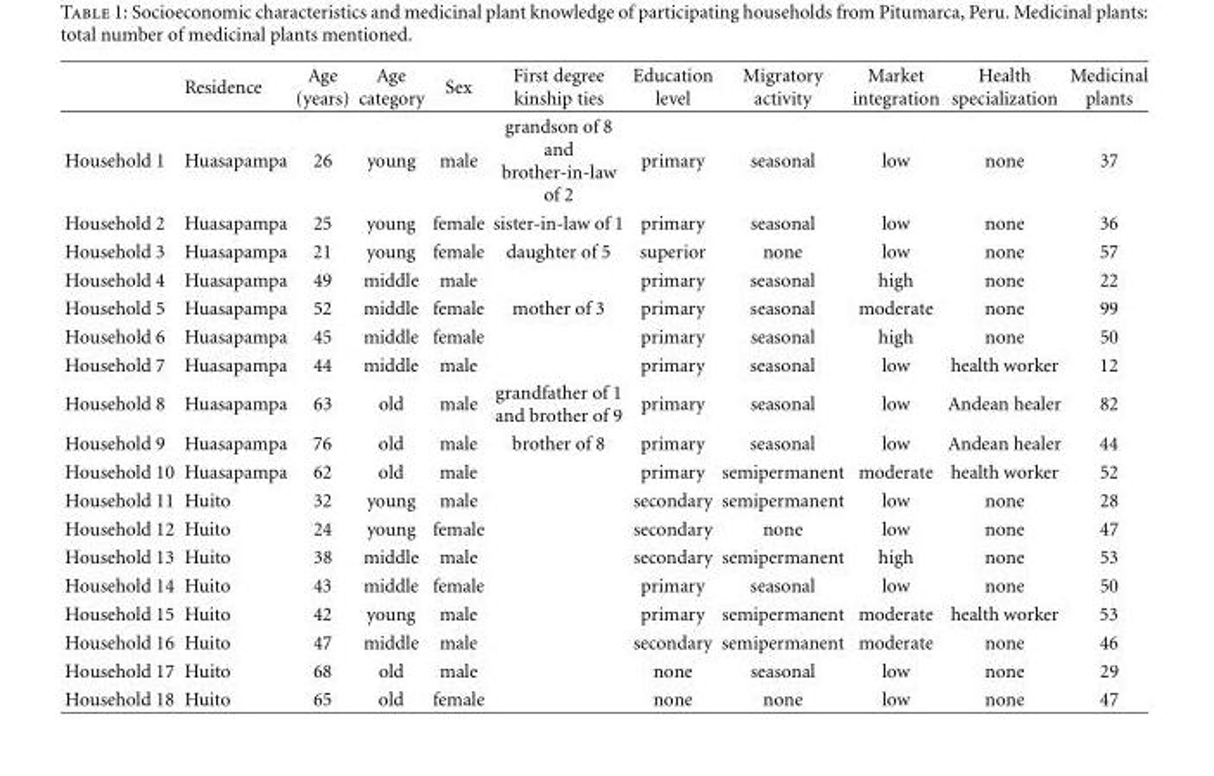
<table><thead><tr><td></td><td>Residence</td><td>Age (years)</td><td>Age category</td><td>Sex</td><td>First degree kinship ties</td><td>Education level</td><td>Migratory activity</td><td>Market integration</td><td>Health specialization</td><td>Medicinal plants</td></tr></thead><tbody><tr><td>Household 1</td><td>Huasapampa</td><td>26</td><td>young</td><td>male</td><td>grandson of 8 and brother-in-law of 2</td><td>primary</td><td>seasonal</td><td>low</td><td>none</td><td>37</td></tr><tr><td>Household 2</td><td>Huasapampa</td><td>25</td><td>young</td><td>female</td><td>sister-in-law of 1</td><td>primary</td><td>seasonal</td><td>low</td><td>none</td><td>36</td></tr><tr><td>Household 3</td><td>Huasapampa</td><td>21</td><td>young</td><td>female</td><td>daughter of 5</td><td>superior</td><td>none</td><td>low</td><td>none</td><td>57</td></tr><tr><td>Household 4</td><td>Huasapampa</td><td>49</td><td>middle</td><td>male</td><td></td><td>primary</td><td>seasonal</td><td>high</td><td>none</td><td>22</td></tr><tr><td>Household 5</td><td>Huasapampa</td><td>52</td><td>middle</td><td>female</td><td>mother of 3</td><td>primary</td><td>seasonal</td><td>moderate</td><td>none</td><td>99</td></tr><tr><td>Household 6</td><td>Huasapampa</td><td>45</td><td>middle</td><td>female</td><td></td><td>primary</td><td>seasonal</td><td>high</td><td>none</td><td>50</td></tr><tr><td>Household 7</td><td>Huasapampa</td><td>44</td><td>middle</td><td>male</td><td></td><td>primary</td><td>seasonal</td><td>low</td><td>health worker</td><td>12</td></tr><tr><td>Household 8</td><td>Huasapampa</td><td>63</td><td>old</td><td>male</td><td>grandfather of 1 and brother of 9</td><td>primary</td><td>seasonal</td><td>low</td><td>Andean healer</td><td>82</td></tr><tr><td>Household 9</td><td>Huasapampa</td><td>76</td><td>old</td><td>male</td><td>brother of 8</td><td>primary</td><td>seasonal</td><td>low</td><td>Andean healer</td><td>44</td></tr><tr><td>Household 10</td><td>Huasapampa</td><td>62</td><td>old</td><td>male</td><td></td><td>primary</td><td>semipermanent</td><td>moderate</td><td>health worker</td><td>52</td></tr><tr><td>Household 11</td><td>Huito</td><td>32</td><td>young</td><td>male</td><td></td><td>secondary</td><td>semipermanent</td><td>low</td><td>none</td><td>28</td></tr><tr><td>Household 12</td><td>Huito</td><td>24</td><td>young</td><td>female</td><td></td><td>secondary</td><td>none</td><td>low</td><td>none</td><td>47</td></tr><tr><td>Household 13</td><td>Huito</td><td>38</td><td>middle</td><td>male</td><td></td><td>secondary</td><td>semipermanent</td><td>high</td><td>none</td><td>53</td></tr><tr><td>Household 14</td><td>Huito</td><td>43</td><td>middle</td><td>female</td><td></td><td>primary</td><td>seasonal</td><td>low</td><td>none</td><td>50</td></tr><tr><td>Household 15</td><td>Huito</td><td>42</td><td>young</td><td>male</td><td></td><td>primary</td><td>semipermanent</td><td>moderate</td><td>health worker</td><td>53</td></tr><tr><td>Household 16</td><td>Huito</td><td>47</td><td>middle</td><td>male</td><td></td><td>secondary</td><td>semipermanent</td><td>moderate</td><td>none</td><td>46</td></tr><tr><td>Household 17</td><td>Huito</td><td>68</td><td>old</td><td>male</td><td></td><td>none</td><td>seasonal</td><td>low</td><td>none</td><td>29</td></tr><tr><td>Household 18</td><td>Huito</td><td>65</td><td>old</td><td>female</td><td></td><td>none</td><td>none</td><td>low</td><td>none</td><td>47</td></tr></tbody></table>